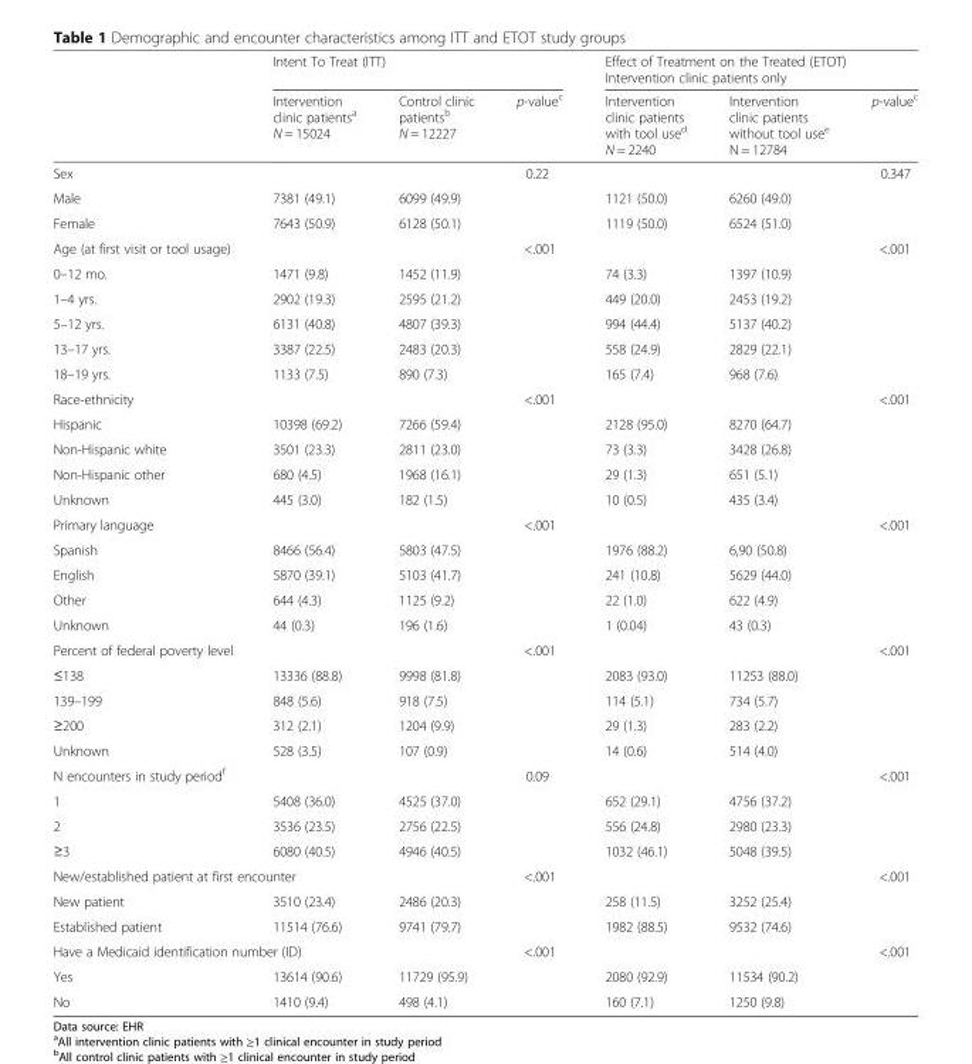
<table><thead><tr><td rowspan="2"></td><td colspan="3">Intent To Treat (ITT)</td><td colspan="3">Effect of Treatment on the Treated (ETOT) Intervention clinic patients only</td></tr><tr><td>Intervention clinic patients<sup>a</sup> N = 15024</td><td>Control clinic patients<sup>b</sup> N = 12227</td><td>p-value<sup>c</sup></td><td>Intervention clinic patients with tool use<sup>d</sup> N = 2240</td><td>Intervention clinic patients without tool use<sup>e</sup> N = 12784</td><td>p-value<sup>c</sup></td></tr></thead><tbody><tr><td>Sex</td><td></td><td></td><td>0.22</td><td></td><td></td><td>0.347</td></tr><tr><td>Male</td><td>7381 (49.1)</td><td>6099 (49.9)</td><td></td><td>1121 (50.0)</td><td>6260 (49.0)</td><td></td></tr><tr><td>Female</td><td>7643 (50.9)</td><td>6128 (50.1)</td><td></td><td>1119 (50.0)</td><td>6524 (51.0)</td><td></td></tr><tr><td>Age (at first visit or tool usage)</td><td></td><td></td><td>&lt;.001</td><td></td><td></td><td>&lt;.001</td></tr><tr><td>0–12 mo.</td><td>1471 (9.8)</td><td>1452 (11.9)</td><td></td><td>74 (3.3)</td><td>1397 (10.9)</td><td></td></tr><tr><td>1–4 yrs.</td><td>2902 (19.3)</td><td>2595 (21.2)</td><td></td><td>449 (20.0)</td><td>2453 (19.2)</td><td></td></tr><tr><td>5–12 yrs.</td><td>6131 (40.8)</td><td>4807 (39.3)</td><td></td><td>994 (44.4)</td><td>5137 (40.2)</td><td></td></tr><tr><td>13–17 yrs.</td><td>3387 (22.5)</td><td>2483 (20.3)</td><td></td><td>558 (24.9)</td><td>2829 (22.1)</td><td></td></tr><tr><td>18–19 yrs.</td><td>1133 (7.5)</td><td>890 (7.3)</td><td></td><td>165 (7.4)</td><td>968 (7.6)</td><td></td></tr><tr><td>Race-ethnicity</td><td></td><td></td><td>&lt;.001</td><td></td><td></td><td>&lt;.001</td></tr><tr><td>Hispanic</td><td>10398 (69.2)</td><td>7266 (59.4)</td><td></td><td>2128 (95.0)</td><td>8270 (64.7)</td><td></td></tr><tr><td>Non-Hispanic white</td><td>3501 (23.3)</td><td>2811 (23.0)</td><td></td><td>73 (3.3)</td><td>3428 (26.8)</td><td></td></tr><tr><td>Non-Hispanic other</td><td>680 (4.5)</td><td>1968 (16.1)</td><td></td><td>29 (1.3)</td><td>651 (5.1)</td><td></td></tr><tr><td>Unknown</td><td>445 (3.0)</td><td>182 (1.5)</td><td></td><td>10 (0.5)</td><td>435 (3.4)</td><td></td></tr><tr><td>Primary language</td><td></td><td></td><td>&lt;.001</td><td></td><td></td><td>&lt;.001</td></tr><tr><td>Spanish</td><td>8466 (56.4)</td><td>5803 (47.5)</td><td></td><td>1976 (88.2)</td><td>6,90 (50.8)</td><td></td></tr><tr><td>English</td><td>5870 (39.1)</td><td>5103 (41.7)</td><td></td><td>241 (10.8)</td><td>5629 (44.0)</td><td></td></tr><tr><td>Other</td><td>644 (4.3)</td><td>1125 (9.2)</td><td></td><td>22 (1.0)</td><td>622 (4.9)</td><td></td></tr><tr><td>Unknown</td><td>44 (0.3)</td><td>196 (1.6)</td><td></td><td>1 (0.04)</td><td>43 (0.3)</td><td></td></tr><tr><td colspan="3">Percent of federal poverty level</td><td>&lt;.001</td><td></td><td></td><td>&lt;.001</td></tr><tr><td>≤138</td><td>13336 (88.8)</td><td>9998 (81.8)</td><td></td><td>2083 (93.0)</td><td>11253 (88.0)</td><td></td></tr><tr><td>139–199</td><td>848 (5.6)</td><td>918 (7.5)</td><td></td><td>114 (5.1)</td><td>734 (5.7)</td><td></td></tr><tr><td>≥200</td><td>312 (2.1)</td><td>1204 (9.9)</td><td></td><td>29 (1.3)</td><td>283 (2.2)</td><td></td></tr><tr><td>Unknown</td><td>528 (3.5)</td><td>107 (0.9)</td><td></td><td>14 (0.6)</td><td>514 (4.0)</td><td></td></tr><tr><td colspan="3">N encounters in study period<sup>f</sup></td><td>0.09</td><td></td><td></td><td>&lt;.001</td></tr><tr><td>1</td><td>5408 (36.0)</td><td>4525 (37.0)</td><td></td><td>652 (29.1)</td><td>4756 (37.2)</td><td></td></tr><tr><td>2</td><td>3536 (23.5)</td><td>2756 (22.5)</td><td></td><td>556 (24.8)</td><td>2980 (23.3)</td><td></td></tr><tr><td>≥3</td><td>6080 (40.5)</td><td>4946 (40.5)</td><td></td><td>1032 (46.1)</td><td>5048 (39.5)</td><td></td></tr><tr><td colspan="3">New/established patient at first encounter</td><td>&lt;.001</td><td></td><td></td><td>&lt;.001</td></tr><tr><td>New patient</td><td>3510 (23.4)</td><td>2486 (20.3)</td><td></td><td>258 (11.5)</td><td>3252 (25.4)</td><td></td></tr><tr><td>Established patient</td><td>11514 (76.6)</td><td>9741 (79.7)</td><td></td><td>1982 (88.5)</td><td>9532 (74.6)</td><td></td></tr><tr><td colspan="3">Have a Medicaid identification number (ID)</td><td>&lt;.001</td><td></td><td></td><td>&lt;.001</td></tr><tr><td>Yes</td><td>13614 (90.6)</td><td>11729 (95.9)</td><td></td><td>2080 (92.9)</td><td>11534 (90.2)</td><td></td></tr><tr><td>No</td><td>1410 (9.4)</td><td>498 (4.1)</td><td></td><td>160 (7.1)</td><td>1250 (9.8)</td><td></td></tr></tbody></table>